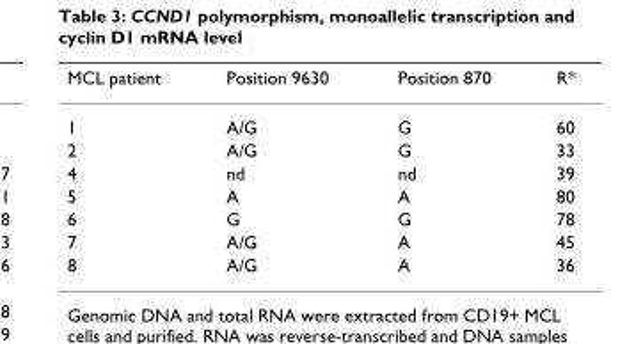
<table><thead><tr><td>MCL patient</td><td>Position 9630</td><td>Position 870</td><td>R*</td></tr></thead><tbody><tr><td>1</td><td>A/G</td><td>G</td><td>60</td></tr><tr><td>2</td><td>A/G</td><td>G</td><td>33</td></tr><tr><td>4</td><td>nd</td><td>nd</td><td>39</td></tr><tr><td>5</td><td>A</td><td>A</td><td>80</td></tr><tr><td>6</td><td>G</td><td>G</td><td>78</td></tr><tr><td>7</td><td>A/G</td><td>A</td><td>45</td></tr><tr><td>8</td><td>A/G</td><td>A</td><td>36</td></tr></tbody></table>